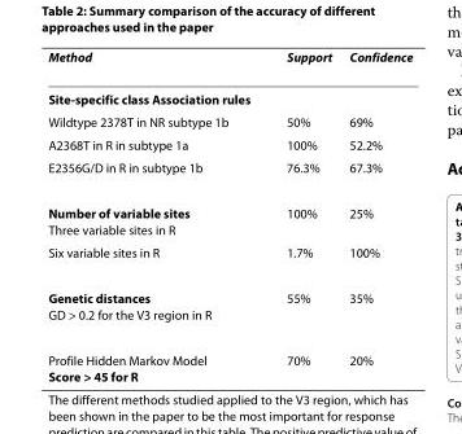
<table><thead><tr><td>Method</td><td>Support</td><td>Confidence</td></tr></thead><tbody><tr><td colspan="3">Site-specific class Association rules</td></tr><tr><td>Wildtype 2378T in NR subtype 1b</td><td>50%</td><td>69%</td></tr><tr><td>A2368T in R in subtype 1a</td><td>100%</td><td>52.2%</td></tr><tr><td>E2356G/D in R in subtype 1b</td><td>76.3%</td><td>67.3%</td></tr><tr><td>Number of variable sites Three variable sites in R</td><td>100%</td><td>25%</td></tr><tr><td>Six variable sites in R</td><td>1.7%</td><td>100%</td></tr><tr><td>Genetic distances GD &gt; 0.2 for the V3 region in R</td><td>55%</td><td>35%</td></tr><tr><td>Profile Hidden Markov Model Score &gt; 45 for R</td><td>70%</td><td>20%</td></tr></tbody></table>